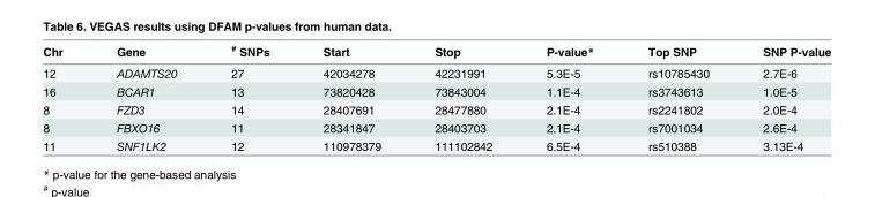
<table><thead><tr><td>Chr</td><td>Gene</td><td><sup>#</sup> SNPs</td><td>Start</td><td>Stop</td><td>P-value*</td><td>Top SNP</td><td>SNP P-value</td></tr></thead><tbody><tr><td>12</td><td>ADAMTS20</td><td>27</td><td>42034278</td><td>42231991</td><td>5.3E-5</td><td>rs10785430</td><td>2.7E-6</td></tr><tr><td>16</td><td>BCAR1</td><td>13</td><td>73820428</td><td>73843004</td><td>1.1E-4</td><td>rs3743613</td><td>1.0E-5</td></tr><tr><td>8</td><td>FZD3</td><td>14</td><td>28407691</td><td>28477880</td><td>2.1E-4</td><td>rs2241802</td><td>2.0E-4</td></tr><tr><td>8</td><td>FBXO16</td><td>11</td><td>28341847</td><td>28403703</td><td>2.1E-4</td><td>rs7001034</td><td>2.6E-4</td></tr><tr><td>11</td><td>SNF1LK2</td><td>12</td><td>110978379</td><td>111102842</td><td>6.5E-4</td><td>rs510388</td><td>3.13E-4</td></tr></tbody></table>